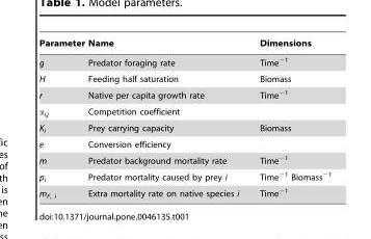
<table><thead><tr><td>Parameter</td><td>Name</td><td>Dimensions</td></tr></thead><tbody><tr><td>g</td><td>Predator foraging rate</td><td>Time<sup>−1</sup></td></tr><tr><td>H</td><td>Feeding half saturation</td><td>Biomass</td></tr><tr><td>r</td><td>Native per capita growth rate</td><td>Time<sup>−1</sup></td></tr><tr><td>α<sub>i,j</sub></td><td>Competition coefficient</td><td></td></tr><tr><td>K<sub>i</sub></td><td>Prey carrying capacity</td><td>Biomass</td></tr><tr><td>e</td><td>Conversion efficiency</td><td></td></tr><tr><td>m</td><td>Predator background mortality rate</td><td>Time<sup>−1</sup></td></tr><tr><td>p<sub>i</sub></td><td>Predator mortality caused by prey i</td><td>Time<sup>−1</sup> Biomass<sup>−1</sup></td></tr><tr><td>m<sub>F, i</sub></td><td>Extra mortality rate on native species i</td><td>Time<sup>−1</sup></td></tr></tbody></table>